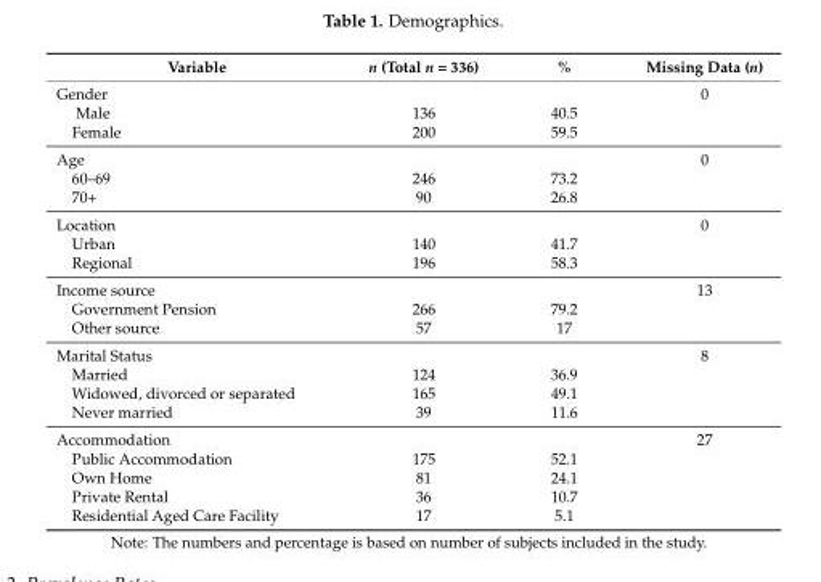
<table><thead><tr><td>Variable</td><td>n (Total n = 336)</td><td>%</td><td>Missing Data (n)</td></tr></thead><tbody><tr><td>Gender</td><td></td><td></td><td>0</td></tr><tr><td>Male</td><td>136</td><td>40.5</td><td></td></tr><tr><td>Female</td><td>200</td><td>59.5</td><td></td></tr><tr><td>Age</td><td></td><td></td><td>0</td></tr><tr><td>60–69</td><td>246</td><td>73.2</td><td></td></tr><tr><td>70+</td><td>90</td><td>26.8</td><td></td></tr><tr><td>Location</td><td></td><td></td><td>0</td></tr><tr><td>Urban</td><td>140</td><td>41.7</td><td></td></tr><tr><td>Regional</td><td>196</td><td>58.3</td><td></td></tr><tr><td>Income source</td><td></td><td></td><td>13</td></tr><tr><td>Government Pension</td><td>266</td><td>79.2</td><td></td></tr><tr><td>Other source</td><td>57</td><td>17</td><td></td></tr><tr><td>Marital Status</td><td></td><td></td><td>8</td></tr><tr><td>Married</td><td>124</td><td>36.9</td><td></td></tr><tr><td>Widowed, divorced or separated</td><td>165</td><td>49.1</td><td></td></tr><tr><td>Never married</td><td>39</td><td>11.6</td><td></td></tr><tr><td>Accommodation</td><td></td><td></td><td>27</td></tr><tr><td>Public Accommodation</td><td>175</td><td>52.1</td><td></td></tr><tr><td>Own Home</td><td>81</td><td>24.1</td><td></td></tr><tr><td>Private Rental</td><td>36</td><td>10.7</td><td></td></tr><tr><td>Residential Aged Care Facility</td><td>17</td><td>5.1</td><td></td></tr></tbody></table>